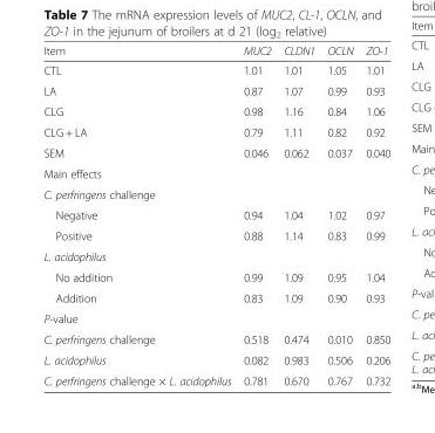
<table><thead><tr><td>Item</td><td>MUC2</td><td>CLDN1</td><td>OCLN</td><td>ZO-1</td></tr></thead><tbody><tr><td>CTL</td><td>1.01</td><td>1.01</td><td>1.05</td><td>1.01</td></tr><tr><td>LA</td><td>0.87</td><td>1.07</td><td>0.99</td><td>0.93</td></tr><tr><td>CLG</td><td>0.98</td><td>1.16</td><td>0.84</td><td>1.06</td></tr><tr><td>CLG + LA</td><td>0.79</td><td>1.11</td><td>0.82</td><td>0.92</td></tr><tr><td>SEM</td><td>0.046</td><td>0.062</td><td>0.037</td><td>0.040</td></tr><tr><td colspan="5">Main effects</td></tr><tr><td colspan="5">C. perfringens challenge</td></tr><tr><td>Negative</td><td>0.94</td><td>1.04</td><td>1.02</td><td>0.97</td></tr><tr><td>Positive</td><td>0.88</td><td>1.14</td><td>0.83</td><td>0.99</td></tr><tr><td colspan="5">L. acidophilus</td></tr><tr><td>No addition</td><td>0.99</td><td>1.09</td><td>0.95</td><td>1.04</td></tr><tr><td>Addition</td><td>0.83</td><td>1.09</td><td>0.90</td><td>0.93</td></tr><tr><td colspan="5">P-value</td></tr><tr><td>C. perfringens challenge</td><td>0.518</td><td>0.474</td><td>0.010</td><td>0.850</td></tr><tr><td>L. acidophilus</td><td>0.082</td><td>0.983</td><td>0.506</td><td>0.206</td></tr><tr><td>C. perfringens challenge × L. acidophilus</td><td>0.781</td><td>0.670</td><td>0.767</td><td>0.732</td></tr></tbody></table>